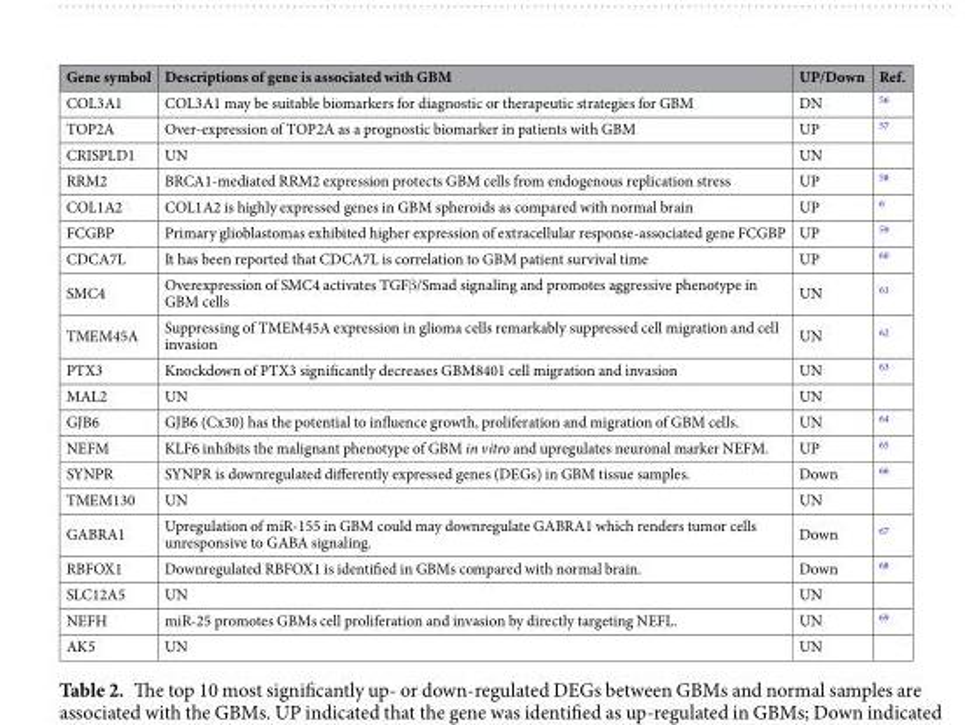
<table><thead><tr><td>Gene symbol</td><td>Descriptions of gene is associated with GBM</td><td>UP/Down</td><td>Ref.</td></tr></thead><tbody><tr><td>COL3A1</td><td>COL3A1 may be suitable biomarkers for diagnostic or therapeutic strategies for GBM</td><td>DN</td><td><sup>56</sup></td></tr><tr><td>TOP2A</td><td>Over-expression of TOP2A as a prognostic biomarker in patients with GBM</td><td>UP</td><td><sup>57</sup></td></tr><tr><td>CRISPLD1</td><td>UN</td><td>UN</td><td></td></tr><tr><td>RRM2</td><td>BRCA1-mediated RRM2 expression protects GBM cells from endogenous replication stress</td><td>UP</td><td><sup>58</sup></td></tr><tr><td>COL1A2</td><td>COL1A2 is highly expressed genes in GBM spheroids as compared with normal brain</td><td>UP</td><td><sup>6</sup></td></tr><tr><td>FCGBP</td><td>Primary glioblastomas exhibited higher expression of extracellular response-associated gene FCGBP</td><td>UP</td><td><sup>59</sup></td></tr><tr><td>CDCA7L</td><td>It has been reported that CDCA7L is correlation to GBM patient survival time</td><td>UP</td><td><sup>60</sup></td></tr><tr><td>SMC4</td><td>Overexpression of SMC4 activates TGFβ/Smad signaling and promotes aggressive phenotype in GBM cells</td><td>UN</td><td><sup>61</sup></td></tr><tr><td>TMEM45A</td><td>Suppressing of TMEM45A expression in glioma cells remarkably suppressed cell migration and cell invasion</td><td>UN</td><td><sup>62</sup></td></tr><tr><td>PTX3</td><td>Knockdown of PTX3 significantly decreases GBM8401 cell migration and invasion</td><td>UN</td><td><sup>63</sup></td></tr><tr><td>MAL2</td><td>UN</td><td>UN</td><td></td></tr><tr><td>GJB6</td><td>GJB6 (Cx30) has the potential to influence growth, proliferation and migration of GBM cells.</td><td>UN</td><td><sup>64</sup></td></tr><tr><td>NEFM</td><td>KLF6 inhibits the malignant phenotype of GBM in vitro and upregulates neuronal marker NEFM.</td><td>UP</td><td><sup>65</sup></td></tr><tr><td>SYNPR</td><td>SYNPR is downregulated differently expressed genes (DEGs) in GBM tissue samples.</td><td>Down</td><td><sup>66</sup></td></tr><tr><td>TMEM130</td><td>UN</td><td>UN</td><td></td></tr><tr><td>GABRA1</td><td>Upregulation of miR-155 in GBM could may downregulate GABRA1 which renders tumor cells unresponsive to GABA signaling.</td><td>Down</td><td><sup>67</sup></td></tr><tr><td>RBFOX1</td><td>Downregulated RBFOX1 is identified in GBMs compared with normal brain.</td><td>Down</td><td><sup>68</sup></td></tr><tr><td>SLC12A5</td><td>UN</td><td>UN</td><td></td></tr><tr><td>NEFH</td><td>miR-25 promotes GBMs cell proliferation and invasion by directly targeting NEFL.</td><td>UN</td><td><sup>69</sup></td></tr><tr><td>AK5</td><td>UN</td><td>UN</td><td></td></tr></tbody></table>